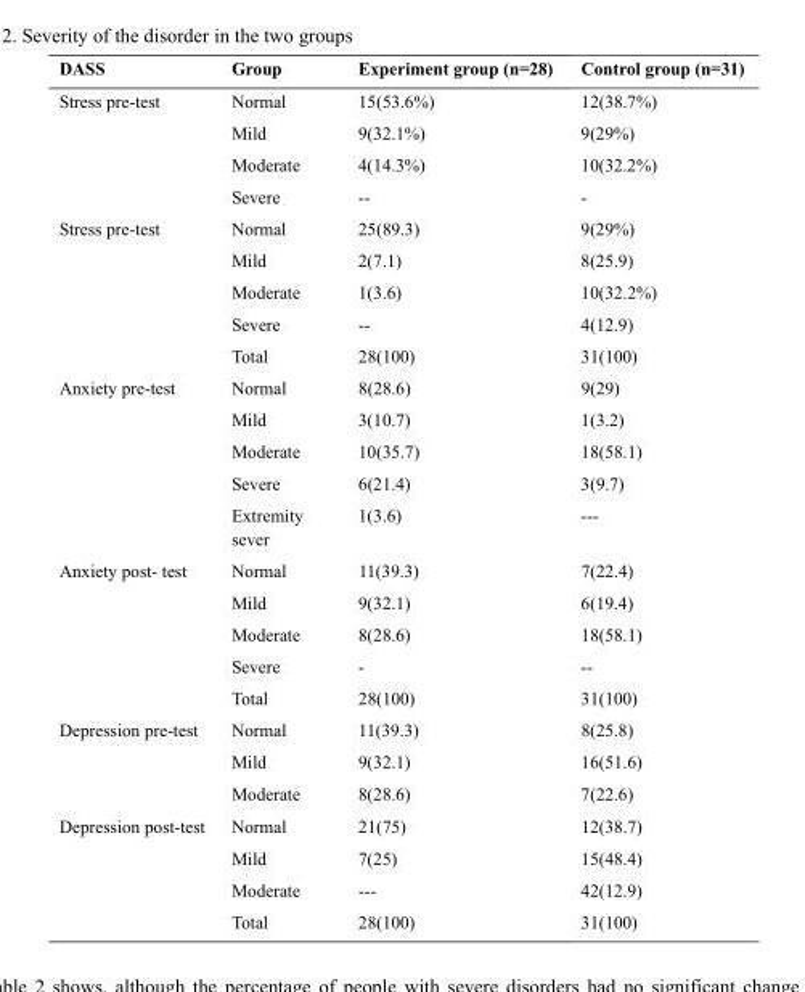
<table><thead><tr><td>DASS</td><td>Group</td><td>Experiment group (n=28)</td><td>Control group (n=31)</td></tr></thead><tbody><tr><td rowspan="4">Stress pre-test</td><td>Normal</td><td>15(53.6%)</td><td>12(38.7%)</td></tr><tr><td>Mild</td><td>9(32.1%)</td><td>9(29%)</td></tr><tr><td>Moderate</td><td>4(14.3%)</td><td>10(32.2%)</td></tr><tr><td>Severe</td><td>--</td><td>-</td></tr><tr><td rowspan="5">Stress pre-test</td><td>Normal</td><td>25(89.3)</td><td>9(29%)</td></tr><tr><td>Mild</td><td>2(7.1)</td><td>8(25.9)</td></tr><tr><td>Moderate</td><td>1(3.6)</td><td>10(32.2%)</td></tr><tr><td>Severe</td><td>--</td><td>4(12.9)</td></tr><tr><td>Total</td><td>28(100)</td><td>31(100)</td></tr><tr><td rowspan="5">Anxiety pre-test</td><td>Normal</td><td>8(28.6)</td><td>9(29)</td></tr><tr><td>Mild</td><td>3(10.7)</td><td>1(3.2)</td></tr><tr><td>Moderate</td><td>10(35.7)</td><td>18(58.1)</td></tr><tr><td>Severe</td><td>6(21.4)</td><td>3(9.7)</td></tr><tr><td>Extremity sever</td><td>1(3.6)</td><td>---</td></tr><tr><td rowspan="5">Anxiety post- test</td><td>Normal</td><td>11(39.3)</td><td>7(22.4)</td></tr><tr><td>Mild</td><td>9(32.1)</td><td>6(19.4)</td></tr><tr><td>Moderate</td><td>8(28.6)</td><td>18(58.1)</td></tr><tr><td>Severe</td><td>-</td><td>--</td></tr><tr><td>Total</td><td>28(100)</td><td>31(100)</td></tr><tr><td rowspan="3">Depression pre-test</td><td>Normal</td><td>11(39.3)</td><td>8(25.8)</td></tr><tr><td>Mild</td><td>9(32.1)</td><td>16(51.6)</td></tr><tr><td>Moderate</td><td>8(28.6)</td><td>7(22.6)</td></tr><tr><td rowspan="4">Depression post-test</td><td>Normal</td><td>21(75)</td><td>12(38.7)</td></tr><tr><td>Mild</td><td>7(25)</td><td>15(48.4)</td></tr><tr><td>Moderate</td><td>---</td><td>42(12.9)</td></tr><tr><td>Total</td><td>28(100)</td><td>31(100)</td></tr></tbody></table>